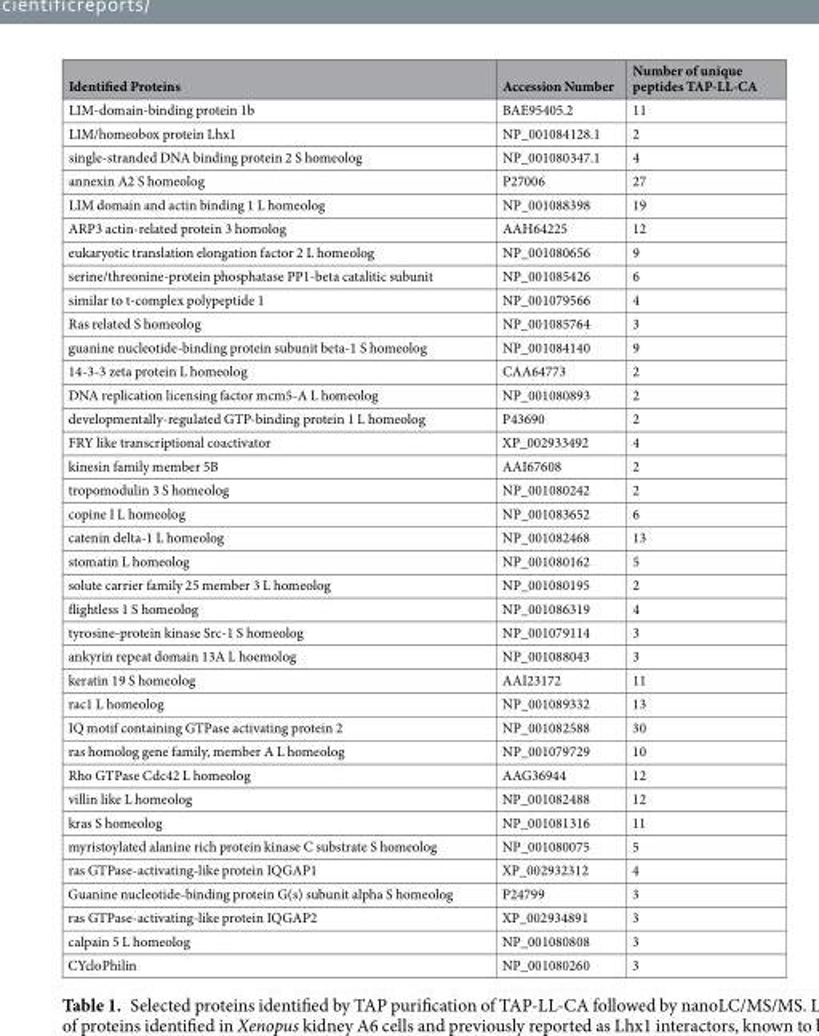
<table><thead><tr><td>Identified Proteins</td><td>Accession Number</td><td>Number of unique peptides TAP-LL-CA</td></tr></thead><tbody><tr><td>LIM-domain-binding protein 1b</td><td>BAE95405.2</td><td>11</td></tr><tr><td>LIM/homeobox protein Lhx1</td><td>NP_001084128.1</td><td>2</td></tr><tr><td>single-stranded DNA binding protein 2 S homeolog</td><td>NP_001080347.1</td><td>4</td></tr><tr><td>annexin A2 S homeolog</td><td>P27006</td><td>27</td></tr><tr><td>LIM domain and actin binding 1 L homeolog</td><td>NP_001088398</td><td>19</td></tr><tr><td>ARP3 actin-related protein 3 homolog</td><td>AAH64225</td><td>12</td></tr><tr><td>eukaryotic translation elongation factor 2 L homeolog</td><td>NP_001080656</td><td>9</td></tr><tr><td>serine/threonine-protein phosphatase PP1-beta catalitic subunit</td><td>NP_001085426</td><td>6</td></tr><tr><td>similar to t-complex polypeptide 1</td><td>NP_001079566</td><td>4</td></tr><tr><td>Ras related S homeolog</td><td>NP_001085764</td><td>3</td></tr><tr><td>guanine nucleotide-binding protein subunit beta-1 S homeolog</td><td>NP_001084140</td><td>9</td></tr><tr><td>14-3-3 zeta protein L homeolog</td><td>CAA64773</td><td>2</td></tr><tr><td>DNA replication licensing factor mcm5-A L homeolog</td><td>NP_001080893</td><td>2</td></tr><tr><td>developmentally-regulated GTP-binding protein 1 L homeolog</td><td>P43690</td><td>2</td></tr><tr><td>FRY like transcriptional coactivator</td><td>XP_002933492</td><td>4</td></tr><tr><td>kinesin family member 5B</td><td>AAI67608</td><td>2</td></tr><tr><td>tropomodulin 3 S homeolog</td><td>NP_001080242</td><td>2</td></tr><tr><td>copine I L homeolog</td><td>NP_001083652</td><td>6</td></tr><tr><td>catenin delta-1 L homeolog</td><td>NP_001082468</td><td>13</td></tr><tr><td>stomatin L homeolog</td><td>NP_001080162</td><td>5</td></tr><tr><td>solute carrier family 25 member 3 L homeolog</td><td>NP_001080195</td><td>2</td></tr><tr><td>flightless 1 S homeolog</td><td>NP_001086319</td><td>4</td></tr><tr><td>tyrosine-protein kinase Src-1 S homeolog</td><td>NP_001079114</td><td>3</td></tr><tr><td>ankyrin repeat domain 13A L hoemolog</td><td>NP_001088043</td><td>3</td></tr><tr><td>keratin 19 S homeolog</td><td>AAI23172</td><td>11</td></tr><tr><td>rac1 L homeolog</td><td>NP_001089332</td><td>13</td></tr><tr><td>IQ motif containing GTPase activating protein 2</td><td>NP_001082588</td><td>30</td></tr><tr><td>ras homolog gene family, member A L homeolog</td><td>NP_001079729</td><td>10</td></tr><tr><td>Rho GTPase Cdc42 L homeolog</td><td>AAG36944</td><td>12</td></tr><tr><td>villin like L homeolog</td><td>NP_001082488</td><td>12</td></tr><tr><td>kras S homeolog</td><td>NP_001081316</td><td>11</td></tr><tr><td>myristoylated alanine rich protein kinase C substrate S homeolog</td><td>NP_001080075</td><td>5</td></tr><tr><td>ras GTPase-activating-like protein IQGAP1</td><td>XP_002932312</td><td>4</td></tr><tr><td>Guanine nucleotide-binding protein G(s) subunit alpha S homeolog</td><td>P24799</td><td>3</td></tr><tr><td>ras GTPase-activating-like protein IQGAP2</td><td>XP_002934891</td><td>3</td></tr><tr><td>calpain 5 L homeolog</td><td>NP_001080808</td><td>3</td></tr><tr><td>CYcloPhilin</td><td>NP_001080260</td><td>3</td></tr></tbody></table>